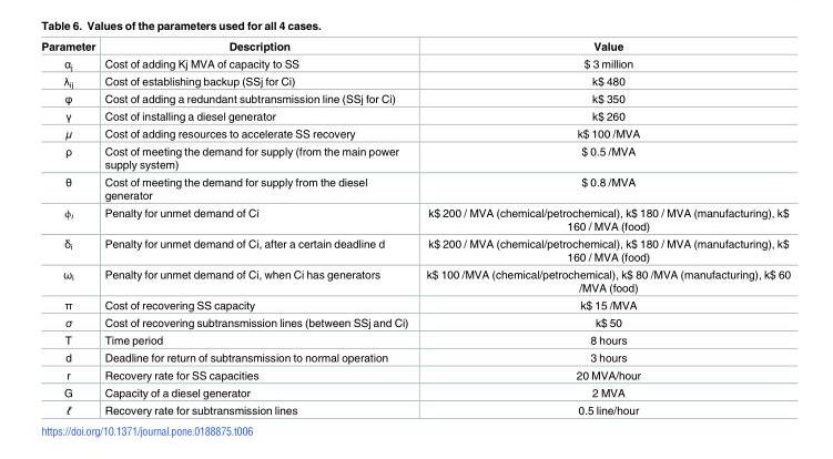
<table><thead><tr><td>Parameter</td><td>Description</td><td>Value</td></tr></thead><tbody><tr><td>α<sub>j</sub></td><td>Cost of adding Kj MVA of capacity to SS</td><td>$ 3 million</td></tr><tr><td>λ<sub>ij</sub></td><td>Cost of establishing backup (SSj for Ci)</td><td>k$ 480</td></tr><tr><td>φ</td><td>Cost of adding a redundant subtransmission line (SSj for Ci)</td><td>k$ 350</td></tr><tr><td>γ</td><td>Cost of installing a diesel generator</td><td>k$ 260</td></tr><tr><td>μ</td><td>Cost of adding resources to accelerate SS recovery</td><td>k$ 100 /MVA</td></tr><tr><td>ρ</td><td>Cost of meeting the demand for supply (from the main power supply system)</td><td>$ 0.5 /MVA</td></tr><tr><td>θ</td><td>Cost of meeting the demand for supply from the diesel generator</td><td>$ 0.8 /MVA</td></tr><tr><td>ϕ<sub>i</sub></td><td>Penalty for unmet demand of Ci</td><td>k$ 200 / MVA (chemical/petrochemical), k$ 180 / MVA (manufacturing), k$ 160 / MVA (food)</td></tr><tr><td>δ<sub>i</sub></td><td>Penalty for unmet demand of Ci, after a certain deadline d</td><td>k$ 200 / MVA (chemical/petrochemical), k$ 180 / MVA (manufacturing), k$ 160 / MVA (food)</td></tr><tr><td>ω<sub>i</sub></td><td>Penalty for unmet demand of Ci, when Ci has generators</td><td>k$ 100 /MVA (chemical/petrochemical), k$ 80 /MVA (manufacturing), k$ 60 /MVA (food)</td></tr><tr><td>π</td><td>Cost of recovering SS capacity</td><td>k$ 15 /MVA</td></tr><tr><td>σ</td><td>Cost of recovering subtransmission lines (between SSj and Ci)</td><td>k$ 50</td></tr><tr><td>T</td><td>Time period</td><td>8 hours</td></tr><tr><td>d</td><td>Deadline for return of subtransmission to normal operation</td><td>3 hours</td></tr><tr><td>r</td><td>Recovery rate for SS capacities</td><td>20 MVA/hour</td></tr><tr><td>G</td><td>Capacity of a diesel generator</td><td>2 MVA</td></tr><tr><td>ℓ</td><td>Recovery rate for subtransmission lines</td><td>0.5 line/hour</td></tr></tbody></table>